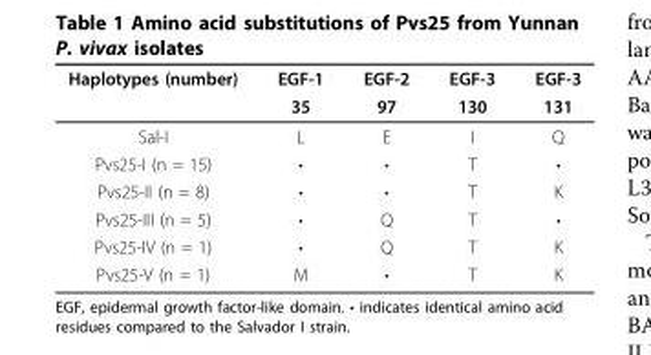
<table><thead><tr><td rowspan="2">Haplotypes (number)</td><td rowspan="2">EGF-1 35</td><td rowspan="2">EGF-2 97</td><td rowspan="2">EGF-3 130</td><td rowspan="2">EGF-3 131</td></tr><tr></tr></thead><tbody><tr><td>Sal-I</td><td>L</td><td>E</td><td>I</td><td>Q</td></tr><tr><td>Pvs25-I (n = 15)</td><td>•</td><td>•</td><td>T</td><td>•</td></tr><tr><td>Pvs25-II (n = 8)</td><td>•</td><td>•</td><td>T</td><td>K</td></tr><tr><td>Pvs25-III (n = 5)</td><td>•</td><td>Q</td><td>T</td><td>•</td></tr><tr><td>Pvs25-IV (n = 1)</td><td>•</td><td>Q</td><td>T</td><td>K</td></tr><tr><td>Pvs25-V (n = 1)</td><td>M</td><td>•</td><td>T</td><td>K</td></tr></tbody></table>